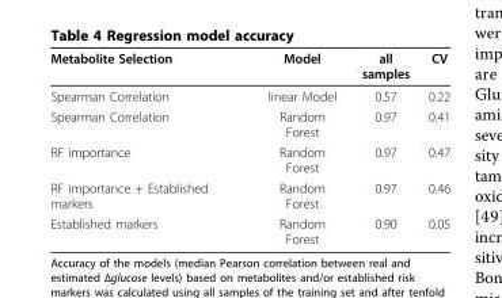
<table><thead><tr><td>Metabolite Selection</td><td>Model</td><td>all samples</td><td>CV</td></tr></thead><tbody><tr><td>Spearman Correlation</td><td>linear Model</td><td>0.57</td><td>0.22</td></tr><tr><td>Spearman Correlation</td><td>Random Forest</td><td>0.97</td><td>0.41</td></tr><tr><td>RF importance</td><td>Random Forest</td><td>0.97</td><td>0.47</td></tr><tr><td>RF importance + Established markers</td><td>Random Forest</td><td>0.97</td><td>0.46</td></tr><tr><td>Established markers</td><td>Random Forest</td><td>0.90</td><td>0.05</td></tr></tbody></table>